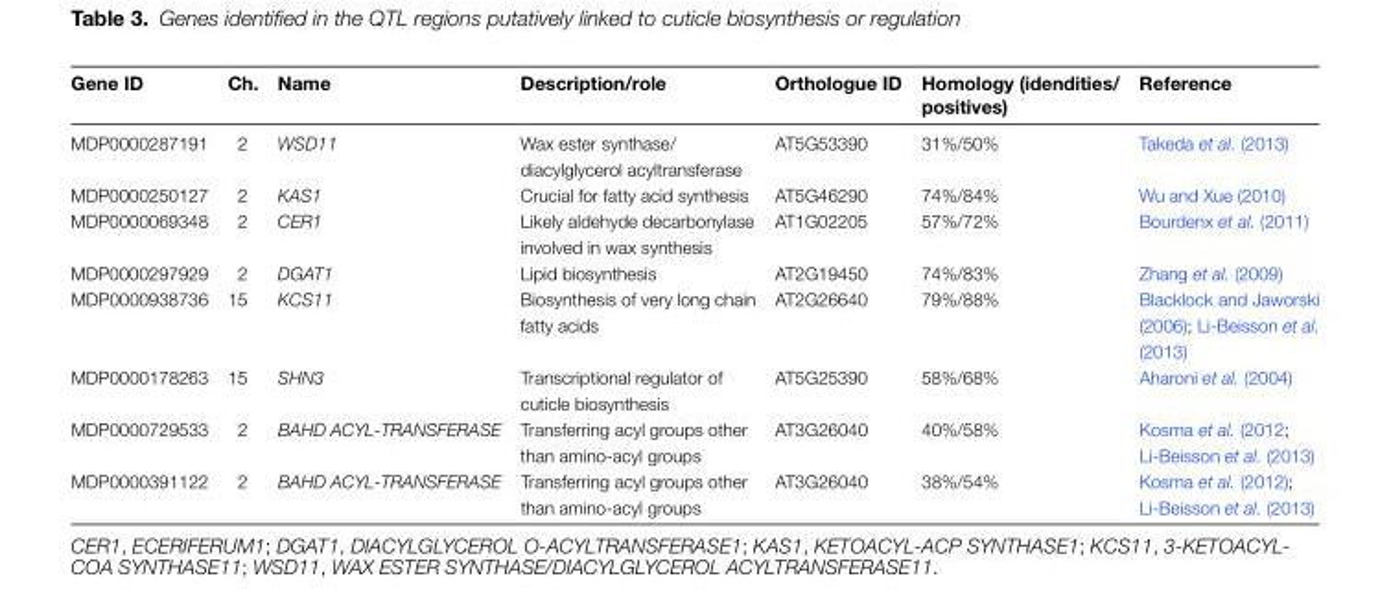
<table><thead><tr><td>Gene ID</td><td>Ch.</td><td>Name</td><td>Description/role</td><td>Orthologue ID</td><td>Homology (idendities/ positives)</td><td>Reference</td></tr></thead><tbody><tr><td>MDP0000287191</td><td>2</td><td>WSD11</td><td>Wax ester synthase/ diacylglycerol acyltransferase</td><td>AT5G53390</td><td>31%/50%</td><td>Takeda et al. (2013)</td></tr><tr><td>MDP0000250127</td><td>2</td><td>KAS1</td><td>Crucial for fatty acid synthesis</td><td>AT5G46290</td><td>74%/84%</td><td>Wu and Xue (2010)</td></tr><tr><td>MDP0000069348</td><td>2</td><td>CER1</td><td>Likely aldehyde decarbonylase involved in wax synthesis</td><td>AT1G02205</td><td>57%/72%</td><td>Bourdenx et al. (2011)</td></tr><tr><td>MDP0000297929</td><td>2</td><td>DGAT1</td><td>Lipid biosynthesis</td><td>AT2G19450</td><td>74%/83%</td><td>Zhang et al. (2009)</td></tr><tr><td>MDP0000938736</td><td>15</td><td>KCS11</td><td>Biosynthesis of very long chain fatty acids</td><td>AT2G26640</td><td>79%/88%</td><td>Blacklock and Jaworski (2006); Li-Beisson et al. (2013)</td></tr><tr><td>MDP0000178263</td><td>15</td><td>SHN3</td><td>Transcriptional regulator of cuticle biosynthesis</td><td>AT5G25390</td><td>58%/68%</td><td>Aharoni et al. (2004)</td></tr><tr><td>MDP0000729533</td><td>2</td><td>BAHD ACYL-TRANSFERASE</td><td>Transferring acyl groups other than amino-acyl groups</td><td>AT3G26040</td><td>40%/58%</td><td>Kosma et al. (2012; Li-Beisson et al. (2013)</td></tr><tr><td>MDP0000391122</td><td>2</td><td>BAHD ACYL-TRANSFERASE</td><td>Transferring acyl groups other than amino-acyl groups</td><td>AT3G26040</td><td>38%/54%</td><td>Kosma et al. (2012); Li-Beisson et al. (2013)</td></tr></tbody></table>